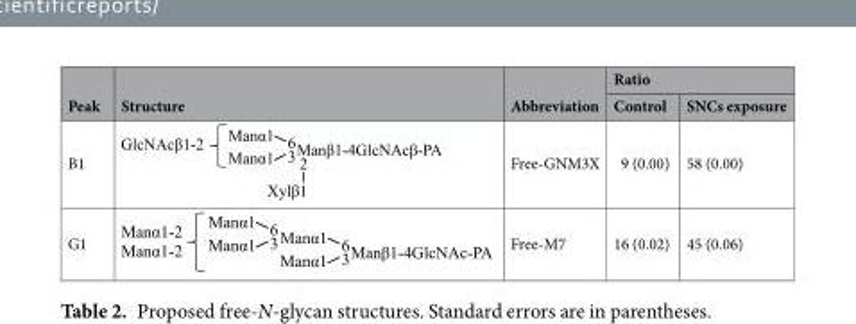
<table><thead><tr><td rowspan="2">Peak</td><td rowspan="2">Structure</td><td rowspan="2">Abbreviation</td><td colspan="2">Ratio</td></tr><tr><td>Control</td><td>SNCs exposure</td></tr></thead><tbody><tr><td>B1</td><td></td><td>Free-GNM3X</td><td>9 (0.00)</td><td>58 (0.00)</td></tr><tr><td>G1</td><td></td><td>Free-M7</td><td>16 (0.02)</td><td>45 (0.06)</td></tr></tbody></table>